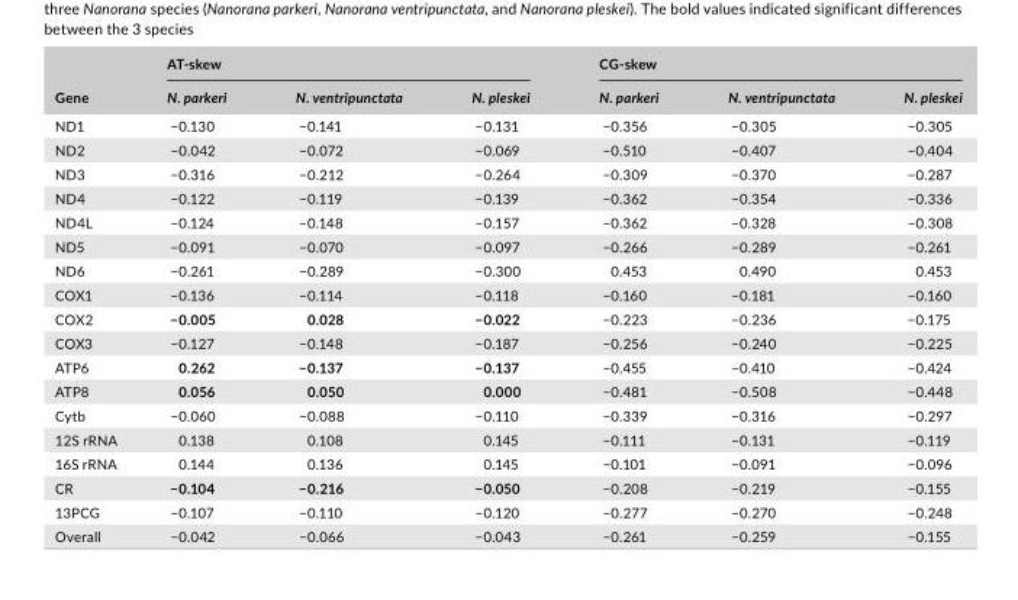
<table><thead><tr><td rowspan="2">Gene</td><td colspan="3">AT- skew</td><td colspan="3">CG- skew</td></tr><tr><td>N. parkeri</td><td>N. ventripunctata</td><td>N. pleskei</td><td>N. parkeri</td><td>N. ventripunctata</td><td>N. pleskei</td></tr></thead><tbody><tr><td>ND1</td><td>−0.130</td><td>−0.141</td><td>−0.131</td><td>−0.356</td><td>−0.305</td><td>−0.305</td></tr><tr><td>ND2</td><td>−0.042</td><td>−0.072</td><td>−0.069</td><td>−0.510</td><td>−0.407</td><td>−0.404</td></tr><tr><td>ND3</td><td>−0.316</td><td>−0.212</td><td>−0.264</td><td>−0.309</td><td>−0.370</td><td>−0.287</td></tr><tr><td>ND4</td><td>−0.122</td><td>−0.119</td><td>−0.139</td><td>−0.362</td><td>−0.354</td><td>−0.336</td></tr><tr><td>ND4L</td><td>−0.124</td><td>−0.148</td><td>−0.157</td><td>−0.362</td><td>−0.328</td><td>−0.308</td></tr><tr><td>ND5</td><td>−0.091</td><td>−0.070</td><td>−0.097</td><td>−0.266</td><td>−0.289</td><td>−0.261</td></tr><tr><td>ND6</td><td>−0.261</td><td>−0.289</td><td>−0.300</td><td>0.453</td><td>0.490</td><td>0.453</td></tr><tr><td>COX1</td><td>−0.136</td><td>−0.114</td><td>−0.118</td><td>−0.160</td><td>−0.181</td><td>−0.160</td></tr><tr><td>COX2</td><td>−0.005</td><td>0.028</td><td>−0.022</td><td>−0.223</td><td>−0.236</td><td>−0.175</td></tr><tr><td>COX3</td><td>−0.127</td><td>−0.148</td><td>−0.187</td><td>−0.256</td><td>−0.240</td><td>−0.225</td></tr><tr><td>ATP6</td><td>0.262</td><td>−0.137</td><td>−0.137</td><td>−0.455</td><td>−0.410</td><td>−0.424</td></tr><tr><td>ATP8</td><td>0.056</td><td>0.050</td><td>0.000</td><td>−0.481</td><td>−0.508</td><td>−0.448</td></tr><tr><td>Cytb</td><td>−0.060</td><td>−0.088</td><td>−0.110</td><td>−0.339</td><td>−0.316</td><td>−0.297</td></tr><tr><td>12S rRNA</td><td>0.138</td><td>0.108</td><td>0.145</td><td>−0.111</td><td>−0.131</td><td>−0.119</td></tr><tr><td>16S rRNA</td><td>0.144</td><td>0.136</td><td>0.145</td><td>−0.101</td><td>−0.091</td><td>−0.096</td></tr><tr><td>CR</td><td>−0.104</td><td>−0.216</td><td>−0.050</td><td>−0.208</td><td>−0.219</td><td>−0.155</td></tr><tr><td>13PCG</td><td>−0.107</td><td>−0.110</td><td>−0.120</td><td>−0.277</td><td>−0.270</td><td>−0.248</td></tr><tr><td>Overall</td><td>−0.042</td><td>−0.066</td><td>−0.043</td><td>−0.261</td><td>−0.259</td><td>−0.155</td></tr></tbody></table>